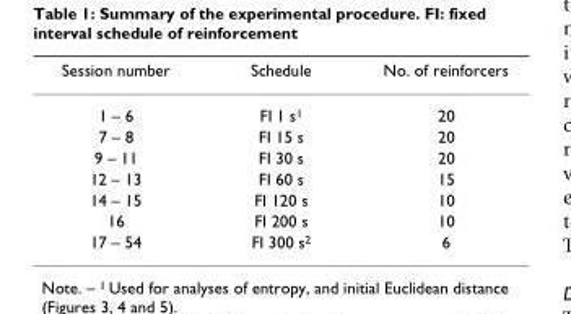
<table><thead><tr><td>Session number</td><td>Schedule</td><td>No. of reinforcers</td></tr></thead><tbody><tr><td>1 – 6</td><td>FI 1 s<sup>1</sup></td><td>20</td></tr><tr><td>7 – 8</td><td>FI 15 s</td><td>20</td></tr><tr><td>9 – 11</td><td>FI 30 s</td><td>20</td></tr><tr><td>12 – 13</td><td>FI 60 s</td><td>15</td></tr><tr><td>14 – 15</td><td>FI 120 s</td><td>10</td></tr><tr><td>16</td><td>FI 200 s</td><td>10</td></tr><tr><td>17 – 54</td><td>FI 300 s<sup>2</sup></td><td>6</td></tr></tbody></table>